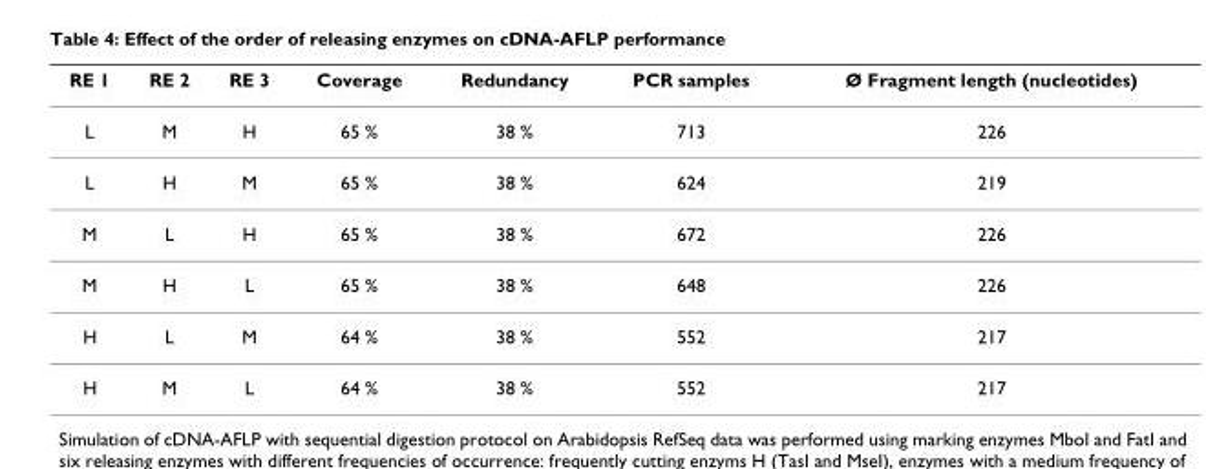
<table><thead><tr><td>RE 1</td><td>RE 2</td><td>RE 3</td><td>Coverage</td><td>Redundancy</td><td>PCR samples</td><td>Ø Fragment length (nucleotides)</td></tr></thead><tbody><tr><td>L</td><td>M</td><td>H</td><td>65 %</td><td>38 %</td><td>713</td><td>226</td></tr><tr><td>L</td><td>H</td><td>M</td><td>65 %</td><td>38 %</td><td>624</td><td>219</td></tr><tr><td>M</td><td>L</td><td>H</td><td>65 %</td><td>38 %</td><td>672</td><td>226</td></tr><tr><td>M</td><td>H</td><td>L</td><td>65 %</td><td>38 %</td><td>648</td><td>226</td></tr><tr><td>H</td><td>L</td><td>M</td><td>64 %</td><td>38 %</td><td>552</td><td>217</td></tr><tr><td>H</td><td>M</td><td>L</td><td>64 %</td><td>38 %</td><td>552</td><td>217</td></tr></tbody></table>